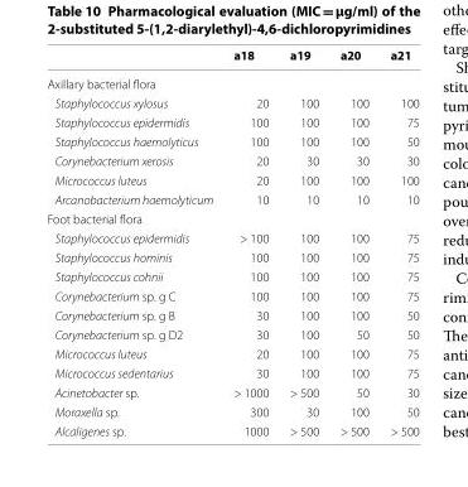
<table><thead><tr><td></td><td>a18</td><td>a19</td><td>a20</td><td>a21</td></tr></thead><tbody><tr><td colspan="5">Axillary bacterial flora</td></tr><tr><td>Staphylococcus xylosus</td><td>20</td><td>100</td><td>100</td><td>100</td></tr><tr><td>Staphylococcus epidermidis</td><td>100</td><td>100</td><td>100</td><td>75</td></tr><tr><td>Staphylococcus haemolyticus</td><td>100</td><td>100</td><td>100</td><td>50</td></tr><tr><td>Corynebacterium xerosis</td><td>20</td><td>30</td><td>30</td><td>30</td></tr><tr><td>Micrococcus luteus</td><td>20</td><td>100</td><td>100</td><td>100</td></tr><tr><td>Arcanobacterium haemolyticum</td><td>10</td><td>10</td><td>10</td><td>10</td></tr><tr><td colspan="5">Foot bacterial flora</td></tr><tr><td>Staphylococcus epidermidis</td><td>&gt; 100</td><td>100</td><td>100</td><td>75</td></tr><tr><td>Staphylococcus hominis</td><td>100</td><td>100</td><td>100</td><td>75</td></tr><tr><td>Staphylococcus cohnii</td><td>100</td><td>100</td><td>100</td><td>75</td></tr><tr><td>Corynebacterium sp. g C</td><td>100</td><td>100</td><td>100</td><td>75</td></tr><tr><td>Corynebacterium sp. g B</td><td>30</td><td>100</td><td>100</td><td>50</td></tr><tr><td>Corynebacterium sp. g D2</td><td>30</td><td>100</td><td>50</td><td>50</td></tr><tr><td>Micrococcus luteus</td><td>20</td><td>100</td><td>100</td><td>75</td></tr><tr><td>Micrococcus sedentarius</td><td>30</td><td>100</td><td>100</td><td>75</td></tr><tr><td>Acinetobacter sp.</td><td>&gt; 1000</td><td>&gt; 500</td><td>50</td><td>30</td></tr><tr><td>Moraxella sp.</td><td>300</td><td>30</td><td>100</td><td>50</td></tr><tr><td>Alcaligenes sp.</td><td>1000</td><td>&gt; 500</td><td>&gt; 500</td><td>&gt; 500</td></tr></tbody></table>